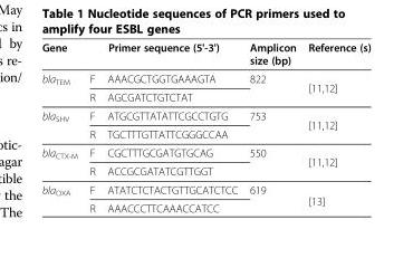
<table><thead><tr><td>Gene</td><td></td><td>Primer sequence (5&#x27;-3&#x27;)</td><td>Amplicon size (bp)</td><td>Reference (s)</td></tr></thead><tbody><tr><td rowspan="2">bla<sub>TEM</sub></td><td>F</td><td>AAACGCTGGTGAAAGTA</td><td rowspan="2">822</td><td rowspan="2">[11,12]</td></tr><tr><td>R</td><td>AGCGATCTGTCTAT</td></tr><tr><td rowspan="2">bla<sub>SHV</sub></td><td>F</td><td>ATGCGTTATATTCGCCTGTG</td><td rowspan="2">753</td><td rowspan="2">[11,12]</td></tr><tr><td>R</td><td>TGCTTTGTTATTCGGGCCAA</td></tr><tr><td rowspan="2">bla<sub>CTX-M</sub></td><td>F</td><td>CGCTTTGCGATGTGCAG</td><td rowspan="2">550</td><td rowspan="2">[11,12]</td></tr><tr><td>R</td><td>ACCGCGATATCGTTGGT</td></tr><tr><td rowspan="2">bla<sub>OXA</sub></td><td>F</td><td>ATATCTCTACTGTTGCATCTCC</td><td rowspan="2">619</td><td rowspan="2">[13]</td></tr><tr><td>R</td><td>AAACCCTTCAAACCATCC</td></tr></tbody></table>